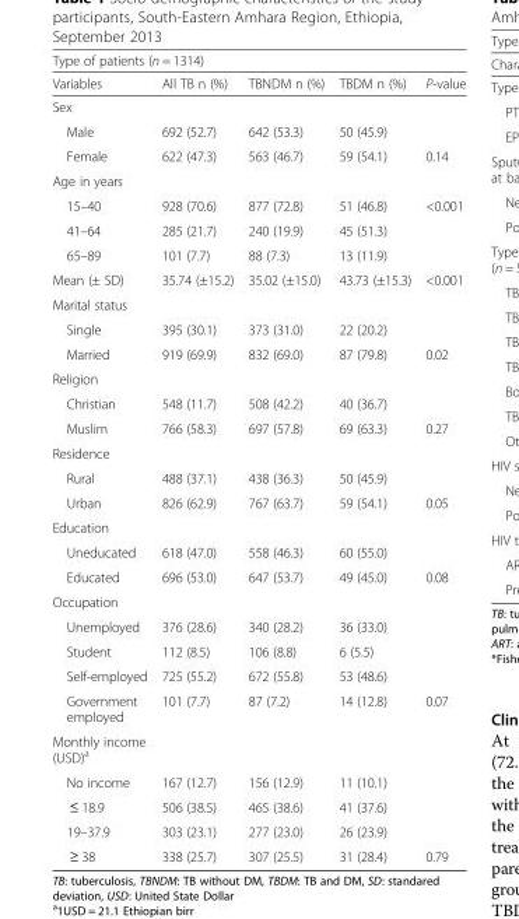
<table><thead><tr><td colspan="5">Type of patients (n = 1314)</td></tr><tr><td>Variables</td><td>All TB n (%)</td><td>TBNDM n (%)</td><td>TBDM n (%)</td><td>P-value</td></tr></thead><tbody><tr><td colspan="5">Sex</td></tr><tr><td>Male</td><td>692 (52.7)</td><td>642 (53.3)</td><td>50 (45.9)</td><td></td></tr><tr><td>Female</td><td>622 (47.3)</td><td>563 (46.7)</td><td>59 (54.1)</td><td>0.14</td></tr><tr><td colspan="5">Age in years</td></tr><tr><td>15–40</td><td>928 (70.6)</td><td>877 (72.8)</td><td>51 (46.8)</td><td>&lt;0.001</td></tr><tr><td>41–64</td><td>285 (21.7)</td><td>240 (19.9)</td><td>45 (51.3)</td><td></td></tr><tr><td>65–89</td><td>101 (7.7)</td><td>88 (7.3)</td><td>13 (11.9)</td><td></td></tr><tr><td>Mean (± SD)</td><td>35.74 (±15.2)</td><td>35.02 (±15.0)</td><td>43.73 (±15.3)</td><td>&lt;0.001</td></tr><tr><td colspan="5">Marital status</td></tr><tr><td>Single</td><td>395 (30.1)</td><td>373 (31.0)</td><td>22 (20.2)</td><td></td></tr><tr><td>Married</td><td>919 (69.9)</td><td>832 (69.0)</td><td>87 (79.8)</td><td>0.02</td></tr><tr><td colspan="5">Religion</td></tr><tr><td>Christian</td><td>548 (11.7)</td><td>508 (42.2)</td><td>40 (36.7)</td><td></td></tr><tr><td>Muslim</td><td>766 (58.3)</td><td>697 (57.8)</td><td>69 (63.3)</td><td>0.27</td></tr><tr><td colspan="5">Residence</td></tr><tr><td>Rural</td><td>488 (37.1)</td><td>438 (36.3)</td><td>50 (45.9)</td><td></td></tr><tr><td>Urban</td><td>826 (62.9)</td><td>767 (63.7)</td><td>59 (54.1)</td><td>0.05</td></tr><tr><td colspan="5">Education</td></tr><tr><td>Uneducated</td><td>618 (47.0)</td><td>558 (46.3)</td><td>60 (55.0)</td><td></td></tr><tr><td>Educated</td><td>696 (53.0)</td><td>647 (53.7)</td><td>49 (45.0)</td><td>0.08</td></tr><tr><td colspan="5">Occupation</td></tr><tr><td>Unemployed</td><td>376 (28.6)</td><td>340 (28.2)</td><td>36 (33.0)</td><td></td></tr><tr><td>Student</td><td>112 (8.5)</td><td>106 (8.8)</td><td>6 (5.5)</td><td></td></tr><tr><td>Self-employed</td><td>725 (55.2)</td><td>672 (55.8)</td><td>53 (48.6)</td><td></td></tr><tr><td>Government employed</td><td>101 (7.7)</td><td>87 (7.2)</td><td>14 (12.8)</td><td>0.07</td></tr><tr><td colspan="5">Monthly income (USD)<sup>a</sup></td></tr><tr><td>No income</td><td>167 (12.7)</td><td>156 (12.9)</td><td>11 (10.1)</td><td></td></tr><tr><td>≤ 18.9</td><td>506 (38.5)</td><td>465 (38.6)</td><td>41 (37.6)</td><td></td></tr><tr><td>19–37.9</td><td>303 (23.1)</td><td>277 (23.0)</td><td>26 (23.9)</td><td></td></tr><tr><td>≥ 38</td><td>338 (25.7)</td><td>307 (25.5)</td><td>31 (28.4)</td><td>0.79</td></tr></tbody></table>